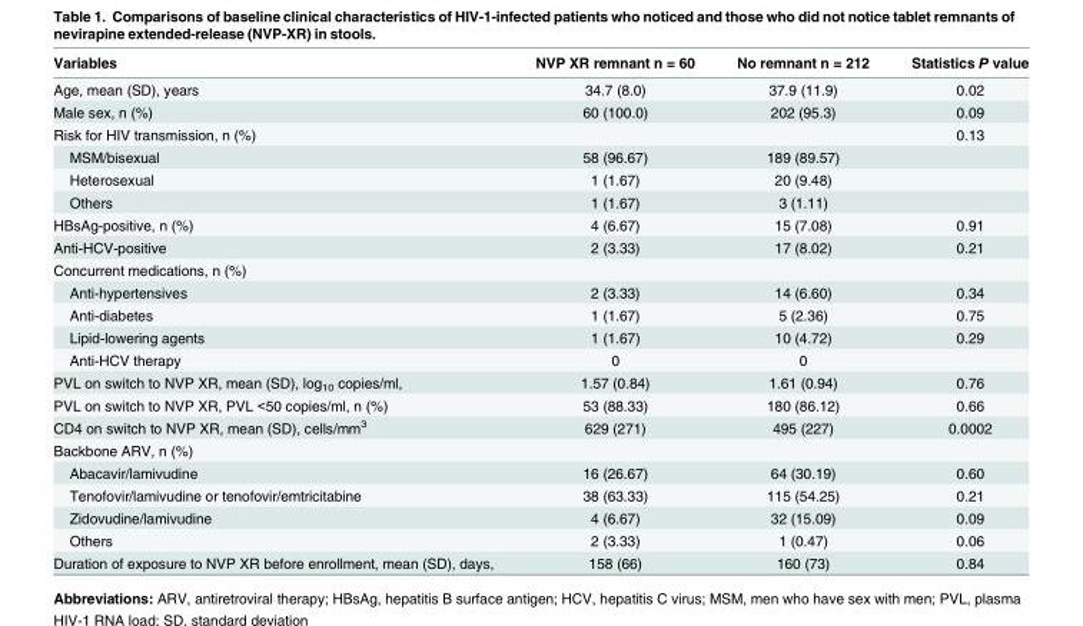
<table><thead><tr><td>Variables</td><td>NVP XR remnant n = 60</td><td>No remnant n = 212</td><td>Statistics P value</td></tr></thead><tbody><tr><td>Age, mean (SD), years</td><td>34.7 (8.0)</td><td>37.9 (11.9)</td><td>0.02</td></tr><tr><td>Male sex, n (%)</td><td>60 (100.0)</td><td>202 (95.3)</td><td>0.09</td></tr><tr><td>Risk for HIV transmission, n (%)</td><td></td><td></td><td>0.13</td></tr><tr><td>MSM/bisexual</td><td>58 (96.67)</td><td>189 (89.57)</td><td></td></tr><tr><td>Heterosexual</td><td>1 (1.67)</td><td>20 (9.48)</td><td></td></tr><tr><td>Others</td><td>1 (1.67)</td><td>3 (1.11)</td><td></td></tr><tr><td>HBsAg-positive, n (%)</td><td>4 (6.67)</td><td>15 (7.08)</td><td>0.91</td></tr><tr><td>Anti-HCV-positive</td><td>2 (3.33)</td><td>17 (8.02)</td><td>0.21</td></tr><tr><td colspan="4">Concurrent medications, n (%)</td></tr><tr><td>Anti-hypertensives</td><td>2 (3.33)</td><td>14 (6.60)</td><td>0.34</td></tr><tr><td>Anti-diabetes</td><td>1 (1.67)</td><td>5 (2.36)</td><td>0.75</td></tr><tr><td>Lipid-lowering agents</td><td>1 (1.67)</td><td>10 (4.72)</td><td>0.29</td></tr><tr><td>Anti-HCV therapy</td><td>0</td><td>0</td><td></td></tr><tr><td>PVL on switch to NVP XR, mean (SD), log<sub>10</sub> copies/ml,</td><td>1.57 (0.84)</td><td>1.61 (0.94)</td><td>0.76</td></tr><tr><td>PVL on switch to NVP XR, PVL &lt;50 copies/ml, n (%)</td><td>53 (88.33)</td><td>180 (86.12)</td><td>0.66</td></tr><tr><td>CD4 on switch to NVP XR, mean (SD), cells/mm<sup>3</sup></td><td>629 (271)</td><td>495 (227)</td><td>0.0002</td></tr><tr><td colspan="4">Backbone ARV, n (%)</td></tr><tr><td>Abacavir/lamivudine</td><td>16 (26.67)</td><td>64 (30.19)</td><td>0.60</td></tr><tr><td>Tenofovir/lamivudine or tenofovir/emtricitabine</td><td>38 (63.33)</td><td>115 (54.25)</td><td>0.21</td></tr><tr><td>Zidovudine/lamivudine</td><td>4 (6.67)</td><td>32 (15.09)</td><td>0.09</td></tr><tr><td>Others</td><td>2 (3.33)</td><td>1 (0.47)</td><td>0.06</td></tr><tr><td>Duration of exposure to NVP XR before enrollment, mean (SD), days,</td><td>158 (66)</td><td>160 (73)</td><td>0.84</td></tr></tbody></table>